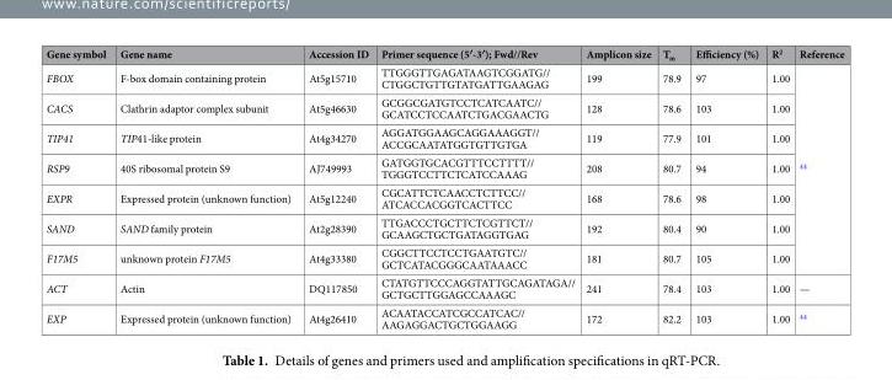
<table><thead><tr><td>Gene symbol</td><td>Gene name</td><td>Accession ID</td><td>Primer sequence (5′-3′); Fwd//Rev</td><td>Amplicon size</td><td>T<sub>m</sub></td><td>Efficiency (%)</td><td>R<sup>2</sup></td><td>Reference</td></tr></thead><tbody><tr><td>FBOX</td><td>F-box domain containing protein</td><td>At5g15710</td><td>TTGGGTTGAGATAAGTCGGATG// CTGGCTGTTGTATGATTGAAGAG</td><td>199</td><td>78.9</td><td>97</td><td>1.00</td><td rowspan="7"><sup>44</sup></td></tr><tr><td>CACS</td><td>Clathrin adaptor complex subunit</td><td>At5g46630</td><td>GCGGCGATGTCCTCATCAATC// GCATCCTCCAATCTGACGAACTG</td><td>128</td><td>78.6</td><td>103</td><td>1.00</td></tr><tr><td>TIP41</td><td>TIP41-like protein</td><td>At4g34270</td><td>AGGATGGAAGCAGGAAAGGT// ACCGCAATATGGTGTTGTGA</td><td>119</td><td>77.9</td><td>101</td><td>1.00</td></tr><tr><td>RSP9</td><td>40S ribosomal protein S9</td><td>AJ749993</td><td>GATGGTGCACGTTTCCTTTT// TGGGTCCTTCTCATCCAAAG</td><td>208</td><td>80.7</td><td>94</td><td>1.00</td></tr><tr><td>EXPR</td><td>Expressed protein (unknown function)</td><td>At5g12240</td><td>CGCATTCTCAACCTCTTCC// ATCACCACGGTCACTTCC</td><td>168</td><td>78.6</td><td>98</td><td>1.00</td></tr><tr><td>SAND</td><td>SAND family protein</td><td>At2g28390</td><td>TTGACCCTGCTTCTCGTTCT// GCAAGCTGCTGATAGGTGAG</td><td>192</td><td>80.4</td><td>90</td><td>1.00</td></tr><tr><td>F17M5</td><td>unknown protein F17M5</td><td>At4g33380</td><td>CGGCTTCCTCCTGAATGTC// GCTCATACGGGCAATAAACC</td><td>181</td><td>80.7</td><td>105</td><td>1.00</td></tr><tr><td>ACT</td><td>Actin</td><td>DQ117850</td><td>CTATGTTCCCAGGTATTGCAGATAGA// GCTGCTTGGAGCCAAAGC</td><td>241</td><td>78.4</td><td>103</td><td>1.00</td><td>—</td></tr><tr><td>EXP</td><td>Expressed protein (unknown function)</td><td>At4g26410</td><td>ACAATACCATCGCCATCAC// AAGAGGACTGCTGGAAGG</td><td>172</td><td>82.2</td><td>103</td><td>1.00</td><td><sup>44</sup></td></tr></tbody></table>